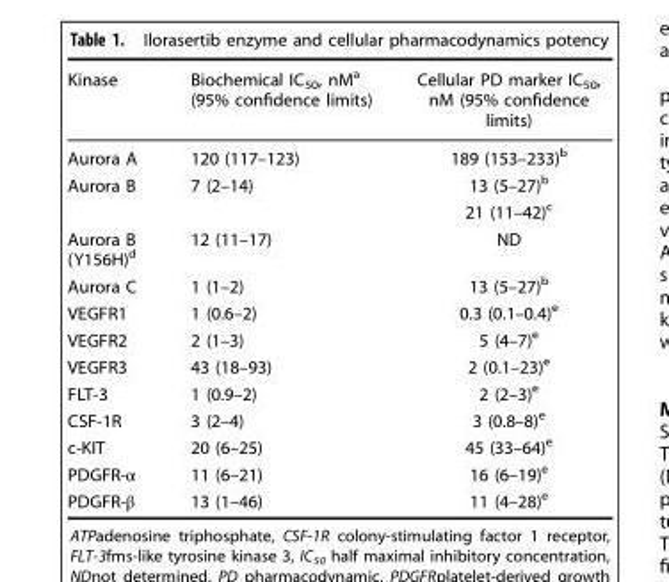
<table><thead><tr><td>Kinase</td><td>Biochemical IC<sub>50</sub>, nM<sup>a</sup> (95% confidence limits)</td><td>Cellular PD marker IC<sub>50</sub>, nM (95% confidence limits)</td></tr></thead><tbody><tr><td>Aurora A</td><td>120 (117–123)</td><td>189 (153–233)<sup>b</sup></td></tr><tr><td rowspan="2">Aurora B</td><td>7 (2–14)</td><td>13 (5–27)<sup>b</sup></td></tr><tr><td></td><td>21 (11–42)<sup>c</sup></td></tr><tr><td>Aurora B (Y156H)<sup>d</sup></td><td>12 (11–17)</td><td>ND</td></tr><tr><td>Aurora C</td><td>1 (1–2)</td><td>13 (5–27)<sup>b</sup></td></tr><tr><td>VEGFR1</td><td>1 (0.6–2)</td><td>0.3 (0.1–0.4)<sup>e</sup></td></tr><tr><td>VEGFR2</td><td>2 (1–3)</td><td>5 (4–7)<sup>e</sup></td></tr><tr><td>VEGFR3</td><td>43 (18–93)</td><td>2 (0.1–23)<sup>e</sup></td></tr><tr><td>FLT-3</td><td>1 (0.9–2)</td><td>2 (2–3)<sup>e</sup></td></tr><tr><td>CSF-1R</td><td>3 (2–4)</td><td>3 (0.8–8)<sup>e</sup></td></tr><tr><td>c-KIT</td><td>20 (6–25)</td><td>45 (33–64)<sup>e</sup></td></tr><tr><td>PDGFR-α</td><td>11 (6–21)</td><td>16 (6–19)<sup>e</sup></td></tr><tr><td>PDGFR-β</td><td>13 (1–46)</td><td>11 (4–28)<sup>e</sup></td></tr></tbody></table>